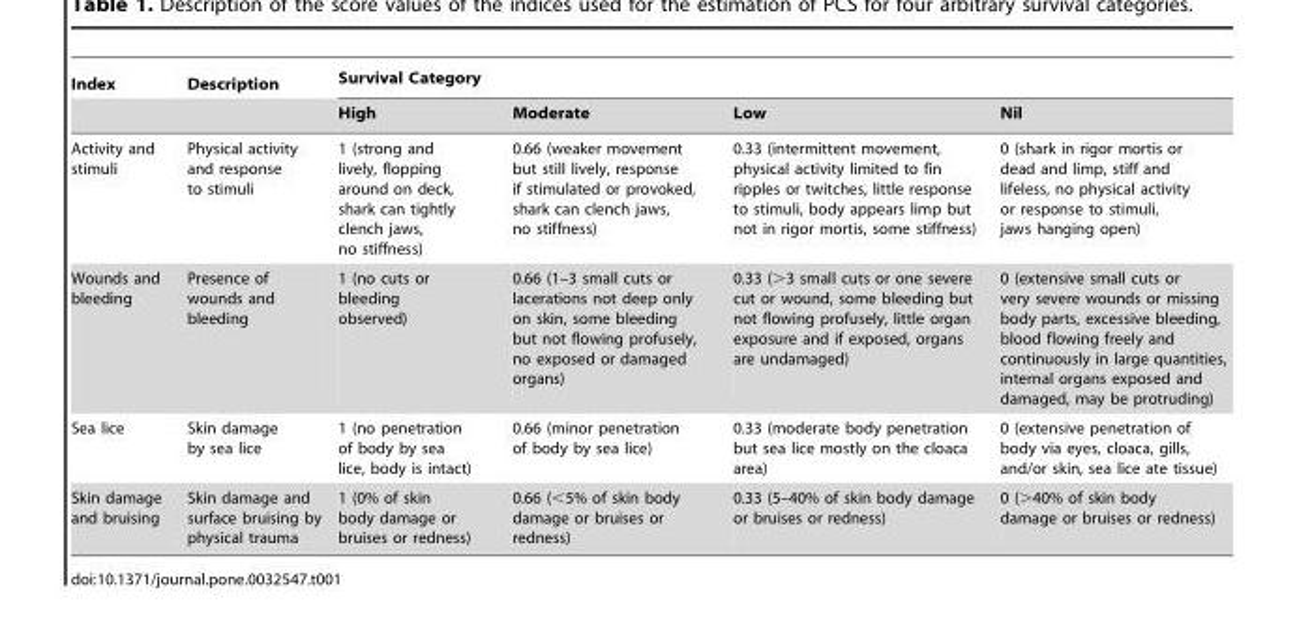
<table><thead><tr><td rowspan="2">Index</td><td rowspan="2">Description</td><td colspan="4">Survival Category</td></tr><tr><td>High</td><td>Moderate</td><td>Low</td><td>Nil</td></tr></thead><tbody><tr><td>Activity and stimuli</td><td>Physical activity and response to stimuli</td><td>1 (strong and lively, flopping around on deck, shark can tightly clench jaws, no stiffness)</td><td>0.66 (weaker movement but still lively, response if stimulated or provoked, shark can clench jaws, no stiffness)</td><td>0.33 (intermittent movement, physical activity limited to fin ripples or twitches, little response to stimuli, body appears limp but not in rigor mortis, some stiffness)</td><td>0 (shark in rigor mortis or dead and limp, stiff and lifeless, no physical activity or response to stimuli, jaws hanging open)</td></tr><tr><td>Wounds and bleeding</td><td>Presence of wounds and bleeding</td><td>1 (no cuts or bleeding observed)</td><td>0.66 (1–3 small cuts or lacerations not deep only on skin, some bleeding but not flowing profusely, no exposed or damaged organs)</td><td>0.33 (&gt;3 small cuts or one severe cut or wound, some bleeding but not flowing profusely, little organ exposure and if exposed, organs are undamaged)</td><td>0 (extensive small cuts or very severe wounds or missing body parts, excessive bleeding, blood flowing freely and continuously in large quantities, internal organs exposed and damaged, may be protruding)</td></tr><tr><td>Sea lice</td><td>Skin damage by sea lice</td><td>1 (no penetration of body by sea lice, body is intact)</td><td>0.66 (minor penetration of body by sea lice)</td><td>0.33 (moderate body penetration but sea lice mostly on the cloaca area)</td><td>0 (extensive penetration of body via eyes, cloaca, gills, and/or skin, sea lice ate tissue)</td></tr><tr><td>Skin damage and bruising</td><td>Skin damage and surface bruising by physical trauma</td><td>1 (0% of skin body damage or bruises or redness)</td><td>0.66 (&lt;5% of skin body damage or bruises or redness)</td><td>0.33 (5–40% of skin body damage or bruises or redness)</td><td>0 (&gt;40% of skin body damage or bruises or redness)</td></tr></tbody></table>